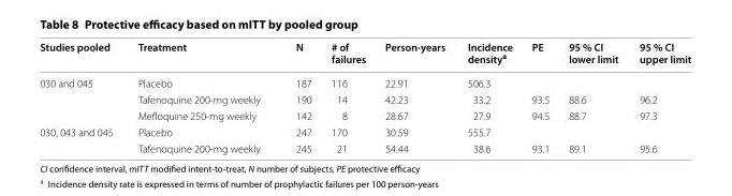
<table><thead><tr><td>Studies pooled</td><td>Treatment</td><td>N</td><td># of failures</td><td>Person-years</td><td>Incidence density<sup>a</sup></td><td>PE</td><td>95 % CI lower limit</td><td>95 % CI upper limit</td></tr></thead><tbody><tr><td rowspan="3">030 and 045</td><td>Placebo</td><td>187</td><td>116</td><td>22.91</td><td>506.3</td><td></td><td></td><td></td></tr><tr><td>Tafenoquine 200-mg weekly</td><td>190</td><td>14</td><td>42.23</td><td>33.2</td><td>93.5</td><td>88.6</td><td>96.2</td></tr><tr><td>Mefloquine 250-mg weekly</td><td>142</td><td>8</td><td>28.67</td><td>27.9</td><td>94.5</td><td>88.7</td><td>97.3</td></tr><tr><td rowspan="2">030, 043 and 045</td><td>Placebo</td><td>247</td><td>170</td><td>30.59</td><td>555.7</td><td></td><td></td><td></td></tr><tr><td>Tafenoquine 200-mg weekly</td><td>245</td><td>21</td><td>54.44</td><td>38.6</td><td>93.1</td><td>89.1</td><td>95.6</td></tr></tbody></table>